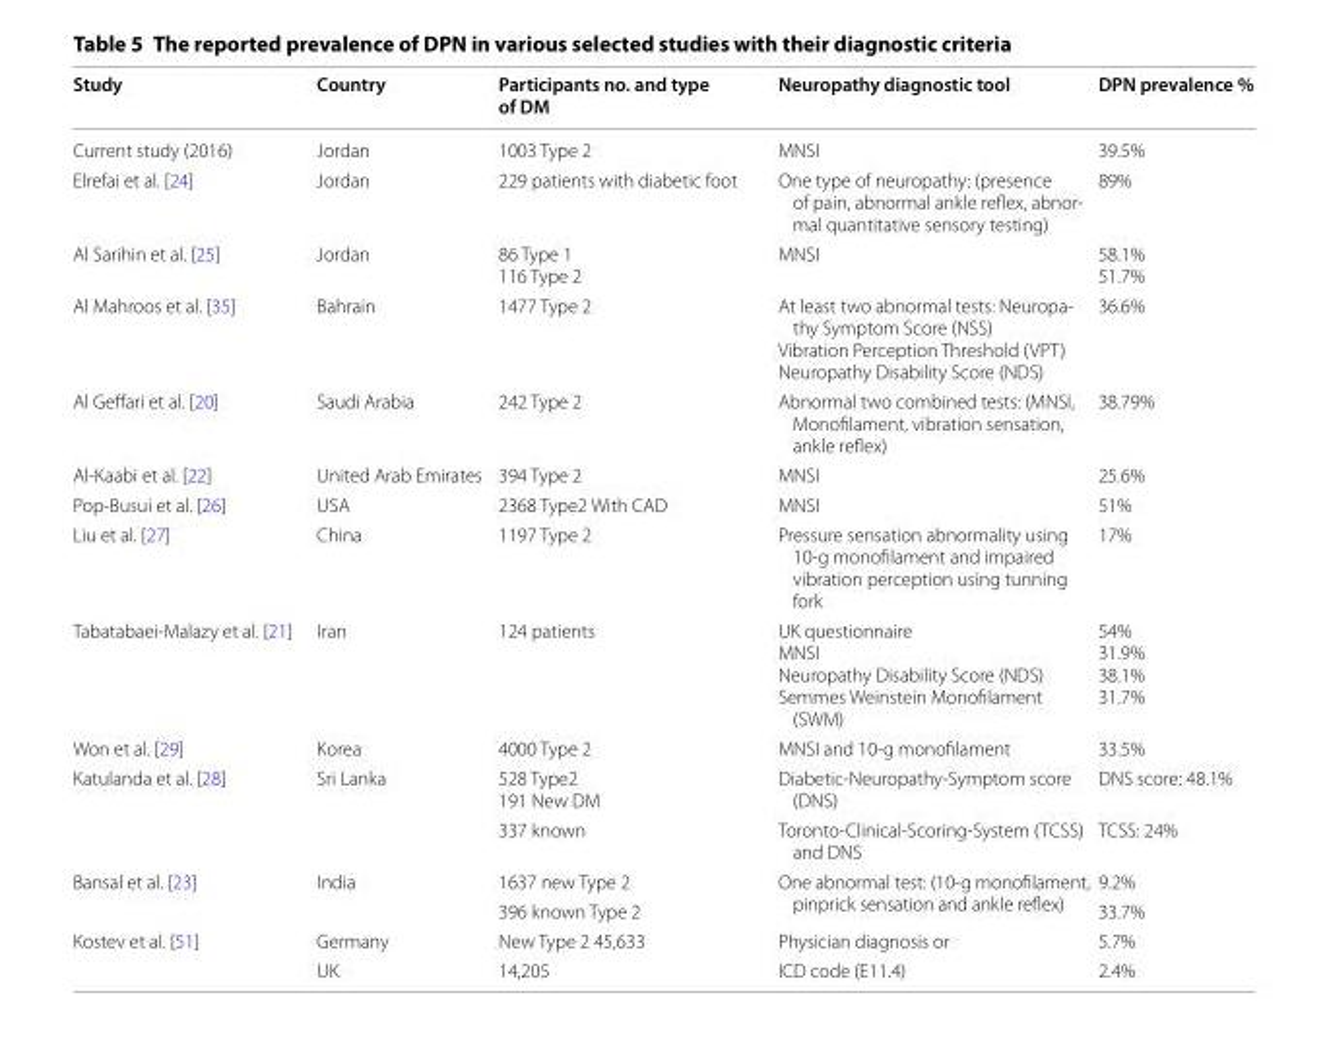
<table><thead><tr><td>Study</td><td>Country</td><td>Participants no. and type of DM</td><td>Neuropathy diagnostic tool</td><td>DPN prevalence %</td></tr></thead><tbody><tr><td>Current study (2016)</td><td>Jordan</td><td>1003 Type 2</td><td>MNSI</td><td>39.5%</td></tr><tr><td>Elrefai et al. [24]</td><td>Jordan</td><td>229 patients with diabetic foot</td><td>One type of neuropathy: (presence of pain, abnormal ankle reflex, abnor‑ mal quantitative sensory testing)</td><td>89%</td></tr><tr><td>Al Sarihin et al. [25]</td><td>Jordan</td><td>86 Type 1 116 Type 2</td><td>MNSI</td><td>58.1% 51.7%</td></tr><tr><td>Al Mahroos et al. [35]</td><td>Bahrain</td><td>1477 Type 2</td><td>At least two abnormal tests: Neuropa‑ thy Symptom Score (NSS) Vibration Perception Threshold (VPT) Neuropathy Disability Score (NDS)</td><td>36.6%</td></tr><tr><td>Al Geffari et al. [20]</td><td>Saudi Arabia</td><td>242 Type 2</td><td>Abnormal two combined tests: (MNSI, Monofilament, vibration sensation, ankle reflex)</td><td>38.79%</td></tr><tr><td>Al‑Kaabi et al. [22]</td><td>United Arab Emirates</td><td>394 Type 2</td><td>MNSI</td><td>25.6%</td></tr><tr><td>Pop‑Busui et al. [26]</td><td>USA</td><td>2368 Type2 With CAD</td><td>MNSI</td><td>51%</td></tr><tr><td>Liu et al. [27]</td><td>China</td><td>1197 Type 2</td><td>Pressure sensation abnormality using 10‑g monofilament and impaired vibration perception using tunning fork</td><td>17%</td></tr><tr><td>Tabatabaei‑Malazy et al. [21]</td><td>Iran</td><td>124 patients</td><td>UK questionnaire MNSI Neuropathy Disability Score (NDS) Semmes Weinstein Monofilament (SWM)</td><td>54% 31.9% 38.1% 31.7%</td></tr><tr><td>Won et al. [29]</td><td>Korea</td><td>4000 Type 2</td><td>MNSI and 10‑g monofilament</td><td>33.5%</td></tr><tr><td rowspan="2">Katulanda et al. [28]</td><td rowspan="2">Sri Lanka</td><td>528 Type2 191 New DM</td><td>Diabetic‑Neuropathy‑Symptom score (DNS)</td><td>DNS score: 48.1%</td></tr><tr><td>337 known</td><td>Toronto‑Clinical‑Scoring‑System (TCSS) and DNS</td><td>TCSS: 24%</td></tr><tr><td rowspan="2">Bansal et al. [23]</td><td rowspan="2">India</td><td>1637 new Type 2</td><td rowspan="2">One abnormal test: (10‑g monofilament, pinprick sensation and ankle reflex)</td><td>9.2%</td></tr><tr><td>396 known Type 2</td><td>33.7%</td></tr><tr><td rowspan="2">Kostev et al. [51]</td><td>Germany</td><td>New Type 2 45,633</td><td>Physician diagnosis or</td><td>5.7%</td></tr><tr><td>UK</td><td>14,205</td><td>ICD code (E11.4)</td><td>2.4%</td></tr></tbody></table>